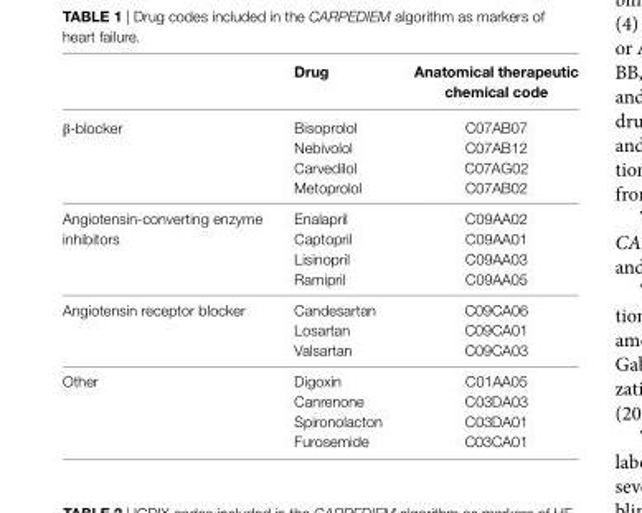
<table><thead><tr><td></td><td>Drug</td><td>anatomical therapeutic chemical code</td></tr></thead><tbody><tr><td rowspan="4">β-blocker</td><td>Bisoprolol</td><td>C07AB07</td></tr><tr><td>Nebivolol</td><td>C07AB12</td></tr><tr><td>Carvedilol</td><td>C07AG02</td></tr><tr><td>Metoprolol</td><td>C07AB02</td></tr><tr><td rowspan="4">Angiotensin-converting enzyme inhibitors</td><td>Enalapril</td><td>C09AA02</td></tr><tr><td>Captopril</td><td>C09AA01</td></tr><tr><td>Lisinopril</td><td>C09AA03</td></tr><tr><td>Ramipril</td><td>C09AA05</td></tr><tr><td rowspan="3">Angiotensin receptor blocker</td><td>Candesartan</td><td>C09CA06</td></tr><tr><td>Losartan</td><td>C09CA01</td></tr><tr><td>Valsartan</td><td>C09CA03</td></tr><tr><td rowspan="4">Other</td><td>Digoxin</td><td>C01AA05</td></tr><tr><td>Canrenone</td><td>C03DA03</td></tr><tr><td>Spironolacton</td><td>C03DA01</td></tr><tr><td>Furosemide</td><td>C03CA01</td></tr></tbody></table>